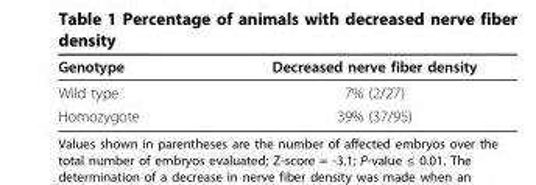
<table><thead><tr><td>Genotype</td><td>Decreased nerve fiber density</td></tr></thead><tbody><tr><td>Wild type</td><td>7% (2/27)</td></tr><tr><td>Homozygote</td><td>39% (37/95)</td></tr></tbody></table>